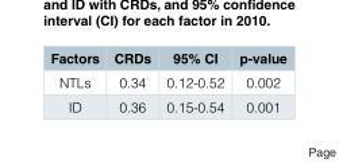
<table><thead><tr><td>Factors</td><td>CRDs</td><td>95% CI</td><td>p-value</td></tr></thead><tbody><tr><td>NTLs</td><td>0.34</td><td>0.12-0.52</td><td>0.002</td></tr><tr><td>ID</td><td>0.36</td><td>0.15-0.54</td><td>0.001</td></tr></tbody></table>